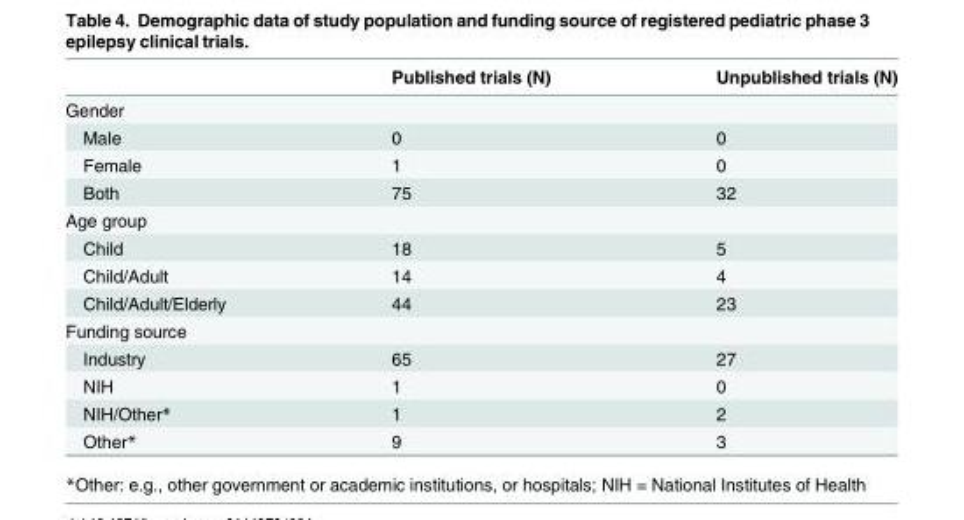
<table><thead><tr><td></td><td>Published trials (N)</td><td>Unpublished trials (N)</td></tr></thead><tbody><tr><td colspan="3">Gender</td></tr><tr><td>Male</td><td>0</td><td>0</td></tr><tr><td>Female</td><td>1</td><td>0</td></tr><tr><td>Both</td><td>75</td><td>32</td></tr><tr><td colspan="3">Age group</td></tr><tr><td>Child</td><td>18</td><td>5</td></tr><tr><td>Child/Adult</td><td>14</td><td>4</td></tr><tr><td>Child/Adult/Elderly</td><td>44</td><td>23</td></tr><tr><td colspan="3">Funding source</td></tr><tr><td>Industry</td><td>65</td><td>27</td></tr><tr><td>NIH</td><td>1</td><td>0</td></tr><tr><td>NIH/Other*</td><td>1</td><td>2</td></tr><tr><td>Other*</td><td>9</td><td>3</td></tr></tbody></table>